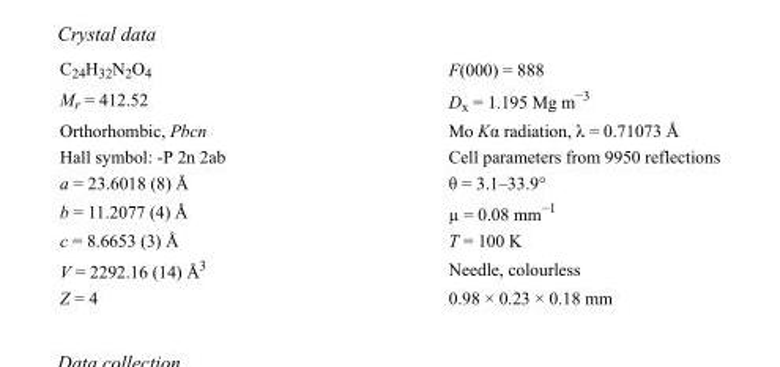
<table><tbody><tr><td>C<sub>24</sub>H<sub>32</sub>N<sub>2</sub>O<sub>4</sub></td><td>F(000) = 888</td></tr><tr><td>M<sub>r</sub> = 412.52</td><td>D<sub>x</sub> = 1.195 Mg m<sup>−3</sup></td></tr><tr><td>Orthorhombic, Pbcn</td><td>Mo Kα radiation, λ = 0.71073 Å</td></tr><tr><td>Hall symbol: -P 2n 2ab</td><td>Cell parameters from 9950 reflections</td></tr><tr><td>a = 23.6018 (8) Å</td><td>θ = 3.1–33.9°</td></tr><tr><td>b = 11.2077 (4) Å</td><td>µ = 0.08 mm<sup>−1</sup></td></tr><tr><td>c = 8.6653 (3) Å</td><td>T = 100 K</td></tr><tr><td>V = 2292.16 (14) Å<sup>3</sup></td><td>Needle, colourless</td></tr><tr><td>Z = 4</td><td>0.98 × 0.23 × 0.18 mm</td></tr></tbody></table>